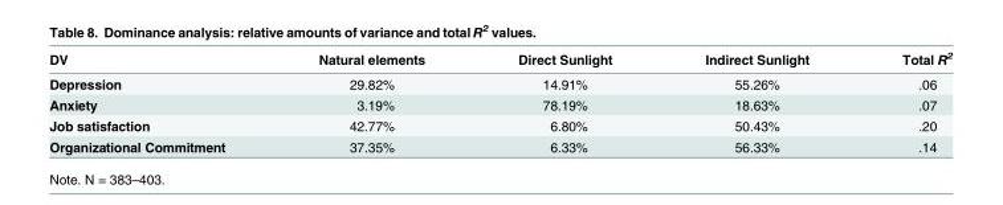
<table><thead><tr><td>DV</td><td>Natural elements</td><td>Direct Sunlight</td><td>Indirect Sunlight</td><td>Total R<sup>2</sup></td></tr></thead><tbody><tr><td>Depression</td><td>29.82%</td><td>14.91%</td><td>55.26%</td><td>.06</td></tr><tr><td>Anxiety</td><td>3.19%</td><td>78.19%</td><td>18.63%</td><td>.07</td></tr><tr><td>Job satisfaction</td><td>42.77%</td><td>6.80%</td><td>50.43%</td><td>.20</td></tr><tr><td>Organizational Commitment</td><td>37.35%</td><td>6.33%</td><td>56.33%</td><td>.14</td></tr></tbody></table>